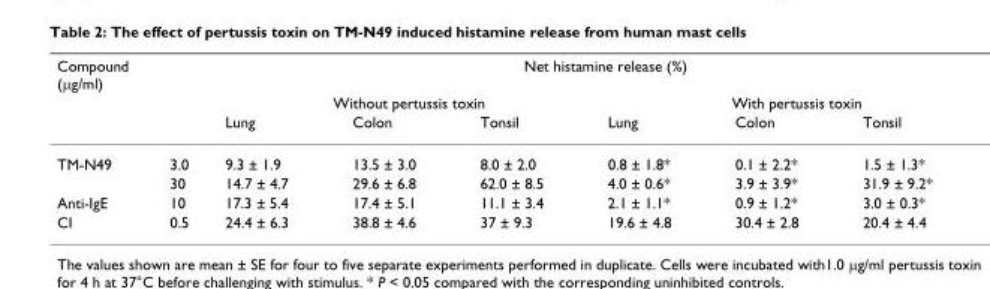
<table><thead><tr><td colspan="2">Compound (μg/ml)</td><td colspan="6">Net histamine release (%)</td></tr><tr><td rowspan="2"></td><td rowspan="2"></td><td colspan="3">Without pertussis toxin</td><td colspan="3">With pertussis toxin</td></tr><tr><td>Lung</td><td>Colon</td><td>Tonsil</td><td>Lung</td><td>Colon</td><td>Tonsil</td></tr></thead><tbody><tr><td rowspan="2">TM-N49</td><td>3.0</td><td>9.3 ± 1.9</td><td>13.5 ± 3.0</td><td>8.0 ± 2.0</td><td>0.8 ± 1.8*</td><td>0.1 ± 2.2*</td><td>1.5 ± 1.3*</td></tr><tr><td>30</td><td>14.7 ± 4.7</td><td>29.6 ± 6.8</td><td>62.0 ± 8.5</td><td>4.0 ± 0.6*</td><td>3.9 ± 3.9*</td><td>31.9 ± 9.2*</td></tr><tr><td>Anti-IgE</td><td>10</td><td>17.3 ± 5.4</td><td>17.4 ± 5.1</td><td>11.1 ± 3.4</td><td>2.1 ± 1.1*</td><td>0.9 ± 1.2*</td><td>3.0 ± 0.3*</td></tr><tr><td>CI</td><td>0.5</td><td>24.4 ± 6.3</td><td>38.8 ± 4.6</td><td>37 ± 9.3</td><td>19.6 ± 4.8</td><td>30.4 ± 2.8</td><td>20.4 ± 4.4</td></tr></tbody></table>